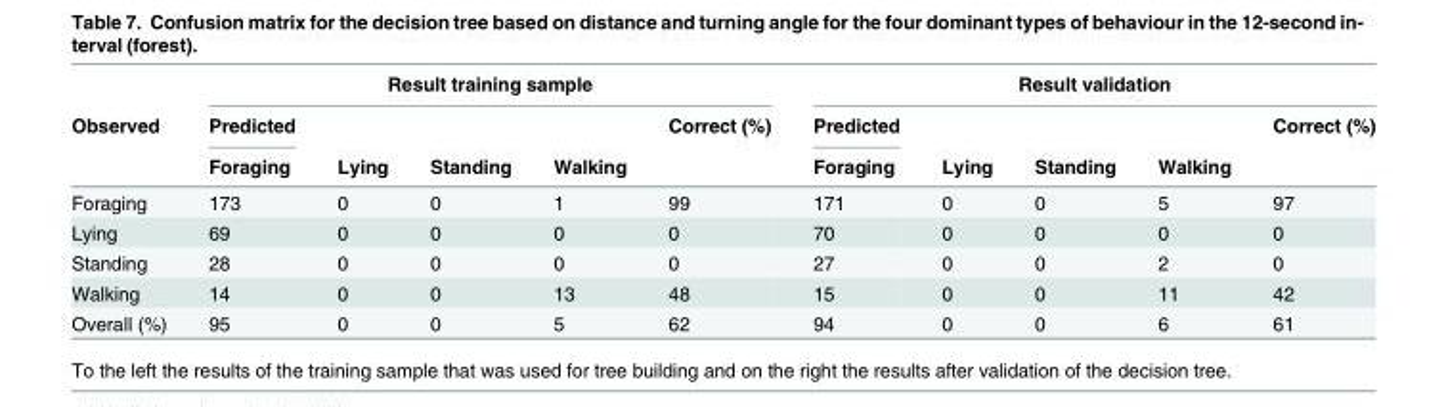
<table><thead><tr><td rowspan="3">Observed</td><td colspan="5">Result training sample</td><td colspan="5">Result validation</td></tr><tr><td rowspan="2">Predicted Foraging</td><td rowspan="2">Lying</td><td rowspan="2">Standing</td><td rowspan="2">Walking</td><td rowspan="2">Correct (%)</td><td rowspan="2">Predicted Foraging</td><td rowspan="2">Lying</td><td rowspan="2">Standing</td><td rowspan="2">Walking</td><td rowspan="2">Correct (%)</td></tr><tr></tr></thead><tbody><tr><td>Foraging</td><td>173</td><td>0</td><td>0</td><td>1</td><td>99</td><td>171</td><td>0</td><td>0</td><td>5</td><td>97</td></tr><tr><td>Lying</td><td>69</td><td>0</td><td>0</td><td>0</td><td>0</td><td>70</td><td>0</td><td>0</td><td>0</td><td>0</td></tr><tr><td>Standing</td><td>28</td><td>0</td><td>0</td><td>0</td><td>0</td><td>27</td><td>0</td><td>0</td><td>2</td><td>0</td></tr><tr><td>Walking</td><td>14</td><td>0</td><td>0</td><td>13</td><td>48</td><td>15</td><td>0</td><td>0</td><td>11</td><td>42</td></tr><tr><td>Overall (%)</td><td>95</td><td>0</td><td>0</td><td>5</td><td>62</td><td>94</td><td>0</td><td>0</td><td>6</td><td>61</td></tr></tbody></table>